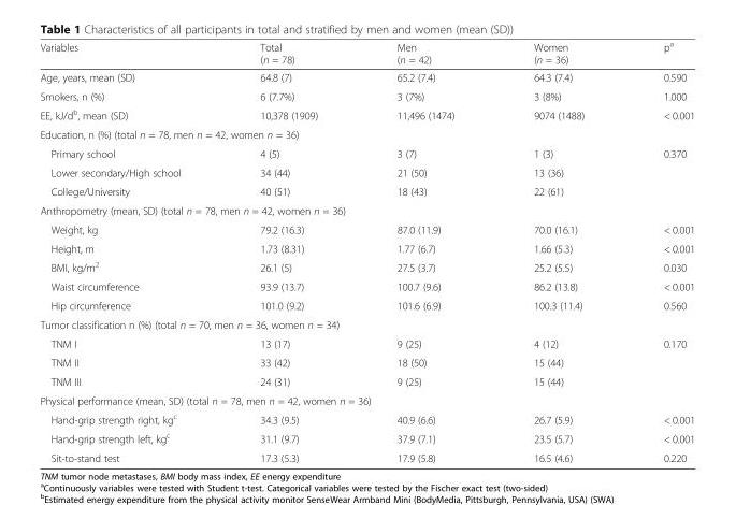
<table><thead><tr><td>Variables</td><td>Total (n = 78)</td><td>Men (n = 42)</td><td>Women (n = 36)</td><td>p<sup>a</sup></td></tr></thead><tbody><tr><td>Age, years, mean (SD)</td><td>64.8 (7)</td><td>65.2 (7.4)</td><td>64.3 (7.4)</td><td>0.590</td></tr><tr><td>Smokers, n (%)</td><td>6 (7.7%)</td><td>3 (7%)</td><td>3 (8%)</td><td>1.000</td></tr><tr><td>EE, kJ/d<sup>b</sup>, mean (SD)</td><td>10,378 (1909)</td><td>11,496 (1474)</td><td>9074 (1488)</td><td>&lt; 0.001</td></tr><tr><td colspan="5">Education, n (%) (total n = 78, men n = 42, women n = 36)</td></tr><tr><td>Primary school</td><td>4 (5)</td><td>3 (7)</td><td>1 (3)</td><td rowspan="3">0.370</td></tr><tr><td>Lower secondary/High school</td><td>34 (44)</td><td>21 (50)</td><td>13 (36)</td></tr><tr><td>College/University</td><td>40 (51)</td><td>18 (43)</td><td>22 (61)</td></tr><tr><td colspan="5">Anthropometry (mean, SD) (total n = 78, men n = 42, women n = 36)</td></tr><tr><td>Weight, kg</td><td>79.2 (16.3)</td><td>87.0 (11.9)</td><td>70.0 (16.1)</td><td>&lt; 0.001</td></tr><tr><td>Height, m</td><td>1.73 (8.31)</td><td>1.77 (6.7)</td><td>1.66 (5.3)</td><td>&lt; 0.001</td></tr><tr><td>BMI, kg/m<sup>2</sup></td><td>26.1 (5)</td><td>27.5 (3.7)</td><td>25.2 (5.5)</td><td>0.030</td></tr><tr><td>Waist circumference</td><td>93.9 (13.7)</td><td>100.7 (9.6)</td><td>86.2 (13.8)</td><td>&lt; 0.001</td></tr><tr><td>Hip circumference</td><td>101.0 (9.2)</td><td>101.6 (6.9)</td><td>100.3 (11.4)</td><td>0.560</td></tr><tr><td colspan="5">Tumor classification n (%) (total n = 70, men n = 36, women n = 34)</td></tr><tr><td>TNM I</td><td>13 (17)</td><td>9 (25)</td><td>4 (12)</td><td rowspan="3">0.170</td></tr><tr><td>TNM II</td><td>33 (42)</td><td>18 (50)</td><td>15 (44)</td></tr><tr><td>TNM III</td><td>24 (31)</td><td>9 (25)</td><td>15 (44)</td></tr><tr><td colspan="5">Physical performance (mean, SD) (total n = 78, men n = 42, women n = 36)</td></tr><tr><td>Hand-grip strength right, kg<sup>c</sup></td><td>34.3 (9.5)</td><td>40.9 (6.6)</td><td>26.7 (5.9)</td><td>&lt; 0.001</td></tr><tr><td>Hand-grip strength left, kg<sup>c</sup></td><td>31.1 (9.7)</td><td>37.9 (7.1)</td><td>23.5 (5.7)</td><td>&lt; 0.001</td></tr><tr><td>Sit-to-stand test</td><td>17.3 (5.3)</td><td>17.9 (5.8)</td><td>16.5 (4.6)</td><td>0.220</td></tr></tbody></table>